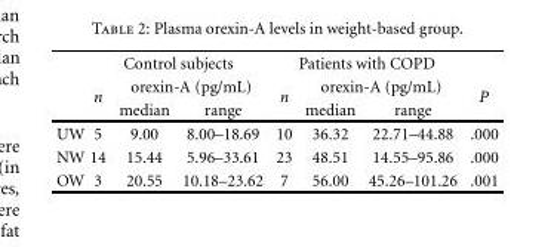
<table><thead><tr><td rowspan="3"></td><td colspan="3">Control subjects</td><td colspan="3">Patients with COPD</td><td rowspan="3">P</td></tr><tr><td rowspan="2">n</td><td colspan="2">orexin-A (pg/mL)</td><td rowspan="2">n</td><td colspan="2">orexin-A (pg/mL)</td></tr><tr><td>median</td><td>range</td><td>median</td><td>range</td></tr></thead><tbody><tr><td>UW</td><td>5</td><td>9.00</td><td>8.00–18.69</td><td>10</td><td>36.32</td><td>22.71–44.88</td><td>.000</td></tr><tr><td>NW</td><td>14</td><td>15.44</td><td>5.96–33.61</td><td>23</td><td>48.51</td><td>14.55–95.86</td><td>.000</td></tr><tr><td>OW</td><td>3</td><td>20.55</td><td>10.18–23.62</td><td>7</td><td>56.00</td><td>45.26–101.26</td><td>.001</td></tr></tbody></table>